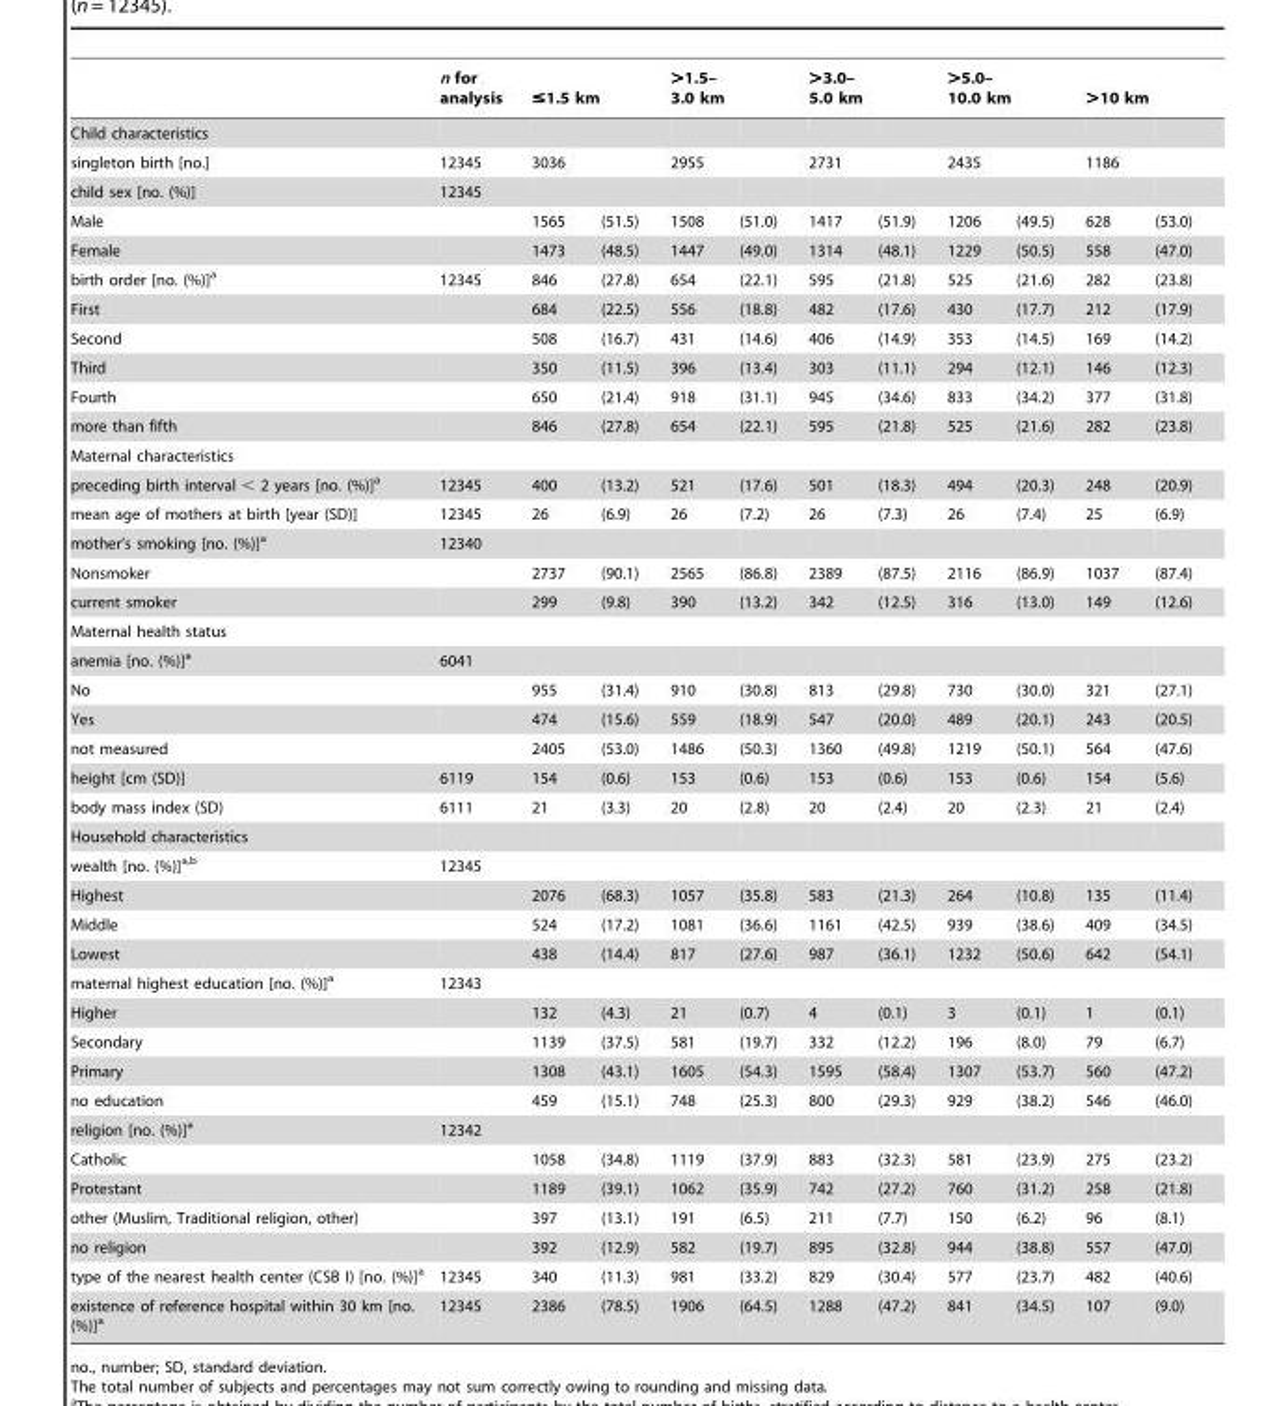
<table><thead><tr><td rowspan="2">Child characteristics</td><td rowspan="2">n for analysis</td><td colspan="2">≤1.5 km</td><td colspan="2">&gt;1.5– 3.0 km</td><td colspan="2">&gt;3.0– 5.0 km</td><td colspan="2">&gt;5.0– 10.0 km</td><td colspan="2">&gt;10 km</td></tr><tr><td></td><td></td><td></td><td></td><td></td><td></td><td></td><td></td><td></td><td></td></tr></thead><tbody><tr><td>singleton birth [no.]</td><td>12345</td><td>3036</td><td></td><td>2955</td><td></td><td>2731</td><td></td><td>2435</td><td></td><td>1186</td><td></td></tr><tr><td>child sex [no. (%)]</td><td>12345</td><td></td><td></td><td></td><td></td><td></td><td></td><td></td><td></td><td></td><td></td></tr><tr><td>Male</td><td></td><td>1565</td><td>(51.5)</td><td>1508</td><td>(51.0)</td><td>1417</td><td>(51.9)</td><td>1206</td><td>(49.5)</td><td>628</td><td>(53.0)</td></tr><tr><td>Female</td><td></td><td>1473</td><td>(48.5)</td><td>1447</td><td>(49.0)</td><td>1314</td><td>(48.1)</td><td>1229</td><td>(50.5)</td><td>558</td><td>(47.0)</td></tr><tr><td>birth order [no. (%)]<sup>a</sup></td><td>12345</td><td>846</td><td>(27.8)</td><td>654</td><td>(22.1)</td><td>595</td><td>(21.8)</td><td>525</td><td>(21.6)</td><td>282</td><td>(23.8)</td></tr><tr><td>First</td><td></td><td>684</td><td>(22.5)</td><td>556</td><td>(18.8)</td><td>482</td><td>(17.6)</td><td>430</td><td>(17.7)</td><td>212</td><td>(17.9)</td></tr><tr><td>Second</td><td></td><td>508</td><td>(16.7)</td><td>431</td><td>(14.6)</td><td>406</td><td>(14.9)</td><td>353</td><td>(14.5)</td><td>169</td><td>(14.2)</td></tr><tr><td>Third</td><td></td><td>350</td><td>(11.5)</td><td>396</td><td>(13.4)</td><td>303</td><td>(11.1)</td><td>294</td><td>(12.1)</td><td>146</td><td>(12.3)</td></tr><tr><td>Fourth</td><td></td><td>650</td><td>(21.4)</td><td>918</td><td>(31.1)</td><td>945</td><td>(34.6)</td><td>833</td><td>(34.2)</td><td>377</td><td>(31.8)</td></tr><tr><td>more than fifth</td><td></td><td>846</td><td>(27.8)</td><td>654</td><td>(22.1)</td><td>595</td><td>(21.8)</td><td>525</td><td>(21.6)</td><td>282</td><td>(23.8)</td></tr><tr><td colspan="12">Maternal characteristics</td></tr><tr><td>preceding birth interval &lt; 2 years [no. (%)]<sup>a</sup></td><td>12345</td><td>400</td><td>(13.2)</td><td>521</td><td>(17.6)</td><td>501</td><td>(18.3)</td><td>494</td><td>(20.3)</td><td>248</td><td>(20.9)</td></tr><tr><td>mean age of mothers at birth [year (SD)]</td><td>12345</td><td>26</td><td>(6.9)</td><td>26</td><td>(7.2)</td><td>26</td><td>(7.3)</td><td>26</td><td>(7.4)</td><td>25</td><td>(6.9)</td></tr><tr><td>mother’s smoking [no. (%)]<sup>a</sup></td><td>12340</td><td></td><td></td><td></td><td></td><td></td><td></td><td></td><td></td><td></td><td></td></tr><tr><td>Nonsmoker</td><td></td><td>2737</td><td>(90.1)</td><td>2565</td><td>(86.8)</td><td>2389</td><td>(87.5)</td><td>2116</td><td>(86.9)</td><td>1037</td><td>(87.4)</td></tr><tr><td>current smoker</td><td></td><td>299</td><td>(9.8)</td><td>390</td><td>(13.2)</td><td>342</td><td>(12.5)</td><td>316</td><td>(13.0)</td><td>149</td><td>(12.6)</td></tr><tr><td colspan="12">Maternal health status</td></tr><tr><td>anemia [no. (%)]<sup>a</sup></td><td>6041</td><td></td><td></td><td></td><td></td><td></td><td></td><td></td><td></td><td></td><td></td></tr><tr><td>No</td><td></td><td>955</td><td>(31.4)</td><td>910</td><td>(30.8)</td><td>813</td><td>(29.8)</td><td>730</td><td>(30.0)</td><td>321</td><td>(27.1)</td></tr><tr><td>Yes</td><td></td><td>474</td><td>(15.6)</td><td>559</td><td>(18.9)</td><td>547</td><td>(20.0)</td><td>489</td><td>(20.1)</td><td>243</td><td>(20.5)</td></tr><tr><td>not measured</td><td></td><td>2405</td><td>(53.0)</td><td>1486</td><td>(50.3)</td><td>1360</td><td>(49.8)</td><td>1219</td><td>(50.1)</td><td>564</td><td>(47.6)</td></tr><tr><td>height [cm (SD)]</td><td>6119</td><td>154</td><td>(0.6)</td><td>153</td><td>(0.6)</td><td>153</td><td>(0.6)</td><td>153</td><td>(0.6)</td><td>154</td><td>(5.6)</td></tr><tr><td>body mass index (SD)</td><td>6111</td><td>21</td><td>(3.3)</td><td>20</td><td>(2.8)</td><td>20</td><td>(2.4)</td><td>20</td><td>(2.3)</td><td>21</td><td>(2.4)</td></tr><tr><td colspan="12">Household characteristics</td></tr><tr><td>wealth [no. (%)]a,b</td><td>12345</td><td></td><td></td><td></td><td></td><td></td><td></td><td></td><td></td><td></td><td></td></tr><tr><td>Highest</td><td></td><td>2076</td><td>(68.3)</td><td>1057</td><td>(35.8)</td><td>583</td><td>(21.3)</td><td>264</td><td>(10.8)</td><td>135</td><td>(11.4)</td></tr><tr><td>Middle</td><td></td><td>524</td><td>(17.2)</td><td>1081</td><td>(36.6)</td><td>1161</td><td>(42.5)</td><td>939</td><td>(38.6)</td><td>409</td><td>(34.5)</td></tr><tr><td>Lowest</td><td></td><td>438</td><td>(14.4)</td><td>817</td><td>(27.6)</td><td>987</td><td>(36.1)</td><td>1232</td><td>(50.6)</td><td>642</td><td>(54.1)</td></tr><tr><td>maternal highest education [no. (%)]<sup>a</sup></td><td>12343</td><td></td><td></td><td></td><td></td><td></td><td></td><td></td><td></td><td></td><td></td></tr><tr><td>Higher</td><td></td><td>132</td><td>(4.3)</td><td>21</td><td>(0.7)</td><td>4</td><td>(0.1)</td><td>3</td><td>(0.1)</td><td>1</td><td>(0.1)</td></tr><tr><td>Secondary</td><td></td><td>1139</td><td>(37.5)</td><td>581</td><td>(19.7)</td><td>332</td><td>(12.2)</td><td>196</td><td>(8.0)</td><td>79</td><td>(6.7)</td></tr><tr><td>Primary</td><td></td><td>1308</td><td>(43.1)</td><td>1605</td><td>(54.3)</td><td>1595</td><td>(58.4)</td><td>1307</td><td>(53.7)</td><td>560</td><td>(47.2)</td></tr><tr><td>no education</td><td></td><td>459</td><td>(15.1)</td><td>748</td><td>(25.3)</td><td>800</td><td>(29.3)</td><td>929</td><td>(38.2)</td><td>546</td><td>(46.0)</td></tr><tr><td>religion [no. (%)]<sup>a</sup></td><td>12342</td><td></td><td></td><td></td><td></td><td></td><td></td><td></td><td></td><td></td><td></td></tr><tr><td>Catholic</td><td></td><td>1058</td><td>(34.8)</td><td>1119</td><td>(37.9)</td><td>883</td><td>(32.3)</td><td>581</td><td>(23.9)</td><td>275</td><td>(23.2)</td></tr><tr><td>Protestant</td><td></td><td>1189</td><td>(39.1)</td><td>1062</td><td>(35.9)</td><td>742</td><td>(27.2)</td><td>760</td><td>(31.2)</td><td>258</td><td>(21.8)</td></tr><tr><td>other (Muslim, Traditional religion, other)</td><td></td><td>397</td><td>(13.1)</td><td>191</td><td>(6.5)</td><td>211</td><td>(7.7)</td><td>150</td><td>(6.2)</td><td>96</td><td>(8.1)</td></tr><tr><td>no religion</td><td></td><td>392</td><td>(12.9)</td><td>582</td><td>(19.7)</td><td>895</td><td>(32.8)</td><td>944</td><td>(38.8)</td><td>557</td><td>(47.0)</td></tr><tr><td>type of the nearest health center (CSB I) [no. (%)]<sup>a</sup></td><td>12345</td><td>340</td><td>(11.3)</td><td>981</td><td>(33.2)</td><td>829</td><td>(30.4)</td><td>577</td><td>(23.7)</td><td>482</td><td>(40.6)</td></tr><tr><td>existence of reference hospital within 30 km [no. (%)]<sup>a</sup></td><td>12345</td><td>2386</td><td>(78.5)</td><td>1906</td><td>(64.5)</td><td>1288</td><td>(47.2)</td><td>841</td><td>(34.5)</td><td>107</td><td>(9.0)</td></tr></tbody></table>